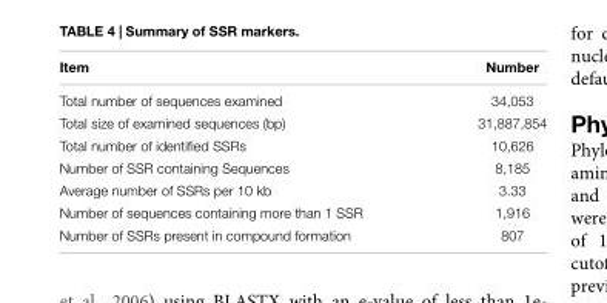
<table><thead><tr><td>Item</td><td>Number</td></tr></thead><tbody><tr><td>Total number of sequences examined</td><td>34,053</td></tr><tr><td>Total size of examined sequences (bp)</td><td>31,887,854</td></tr><tr><td>Total number of identified SSRs</td><td>10,626</td></tr><tr><td>Number of SSR containing Sequences</td><td>8,185</td></tr><tr><td>Average number of SSRs per 10 kb</td><td>3.33</td></tr><tr><td>Number of sequences containing more than 1 SSR</td><td>1,916</td></tr><tr><td>Number of SSRs present in compound formation</td><td>807</td></tr></tbody></table>